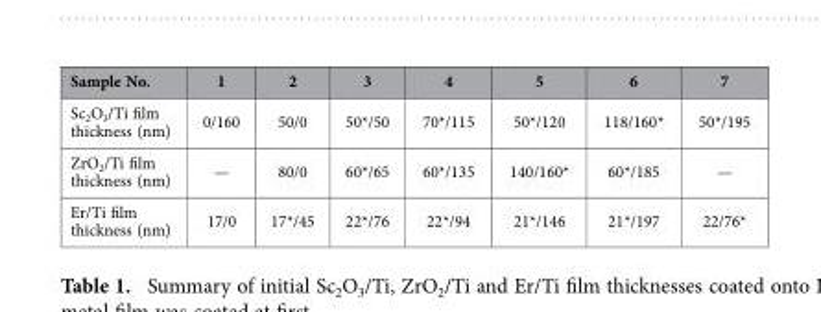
<table><thead><tr><td>Sample No.</td><td>1</td><td>2</td><td>3</td><td>4</td><td>5</td><td>6</td><td>7</td></tr></thead><tbody><tr><td>Sc<sub>2</sub>O<sub>3</sub>/Ti film thickness (nm)</td><td>0/160</td><td>50/0</td><td>50*/50</td><td>70*/115</td><td>50*/120</td><td>118/160*</td><td>50*/195</td></tr><tr><td>ZrO<sub>2</sub>/Ti film thickness (nm)</td><td>—</td><td>80/0</td><td>60*/65</td><td>60*/135</td><td>140/160*</td><td>60*/185</td><td>—</td></tr><tr><td>Er/Ti film thickness (nm)</td><td>17/0</td><td>17*/45</td><td>22*/76</td><td>22*/94</td><td>21*/146</td><td>21*/197</td><td>22/76*</td></tr></tbody></table>